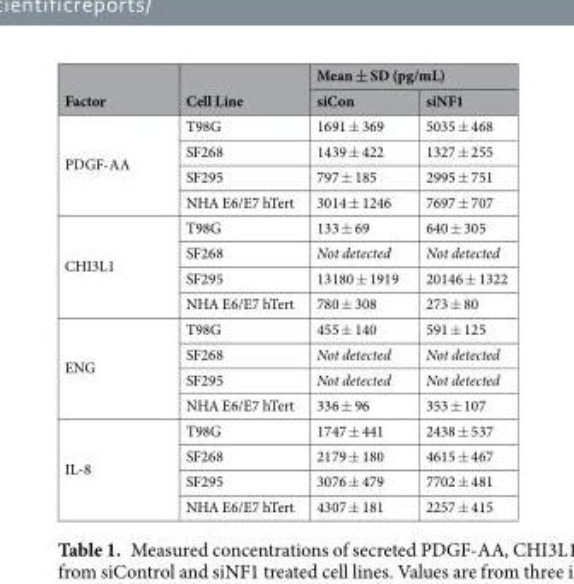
<table><thead><tr><td rowspan="2">Factor</td><td rowspan="2">Cell Line</td><td colspan="2">Mean ± SD (pg/mL)</td></tr><tr><td>siCon</td><td>siNF1</td></tr></thead><tbody><tr><td rowspan="4">PDGF-AA</td><td>T98G</td><td>1691 ± 369</td><td>5035 ± 468</td></tr><tr><td>SF268</td><td>1439 ± 422</td><td>1327 ± 255</td></tr><tr><td>SF295</td><td>797 ± 185</td><td>2995 ± 751</td></tr><tr><td>NHA E6/E7 hTert</td><td>3014 ± 1246</td><td>7697 ± 707</td></tr><tr><td rowspan="4">CHI3L1</td><td>T98G</td><td>133 ± 69</td><td>640 ± 305</td></tr><tr><td>SF268</td><td>Not detected</td><td>Not detected</td></tr><tr><td>SF295</td><td>13180 ± 1919</td><td>20146 ± 1322</td></tr><tr><td>NHA E6/E7 hTert</td><td>780 ± 308</td><td>273 ± 80</td></tr><tr><td rowspan="4">ENG</td><td>T98G</td><td>455 ± 140</td><td>591 ± 125</td></tr><tr><td>SF268</td><td>Not detected</td><td>Not detected</td></tr><tr><td>SF295</td><td>Not detected</td><td>Not detected</td></tr><tr><td>NHA E6/E7 hTert</td><td>336 ± 96</td><td>353 ± 107</td></tr><tr><td rowspan="4">IL-8</td><td>T98G</td><td>1747 ± 441</td><td>2438 ± 537</td></tr><tr><td>SF268</td><td>2179 ± 180</td><td>4615 ± 467</td></tr><tr><td>SF295</td><td>3076 ± 479</td><td>7702 ± 481</td></tr><tr><td>NHA E6/E7 hTert</td><td>4307 ± 181</td><td>2257 ± 415</td></tr></tbody></table>